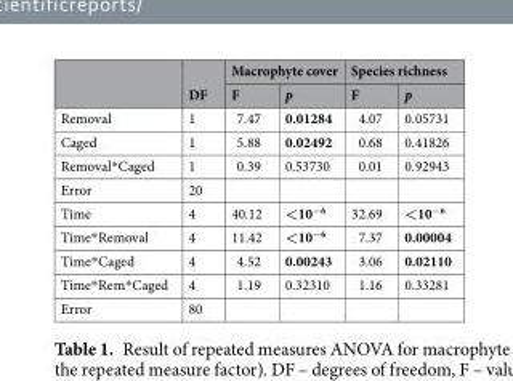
<table><thead><tr><td rowspan="2"></td><td rowspan="2">DF</td><td colspan="2">Macrophyte cover</td><td colspan="2">Species richness</td></tr><tr><td>F</td><td>p</td><td>F</td><td>p</td></tr></thead><tbody><tr><td>Removal</td><td>1</td><td>7.47</td><td>0.01284</td><td>4.07</td><td>0.05731</td></tr><tr><td>Caged</td><td>1</td><td>5.88</td><td>0.02492</td><td>0.68</td><td>0.41826</td></tr><tr><td>Removal*Caged</td><td>1</td><td>0.39</td><td>0.53730</td><td>0.01</td><td>0.92943</td></tr><tr><td>Error</td><td>20</td><td></td><td></td><td></td><td></td></tr><tr><td>Time</td><td>4</td><td>40.12</td><td>&lt;10<sup>−6</sup></td><td>32.69</td><td>&lt;10<sup>−6</sup></td></tr><tr><td>Time*Removal</td><td>4</td><td>11.42</td><td>&lt;10<sup>−6</sup></td><td>7.37</td><td>0.00004</td></tr><tr><td>Time*Caged</td><td>4</td><td>4.52</td><td>0.00243</td><td>3.06</td><td>0.02110</td></tr><tr><td>Time*Rem*Caged</td><td>4</td><td>1.19</td><td>0.32310</td><td>1.16</td><td>0.33281</td></tr><tr><td>Error</td><td>80</td><td></td><td></td><td></td><td></td></tr></tbody></table>